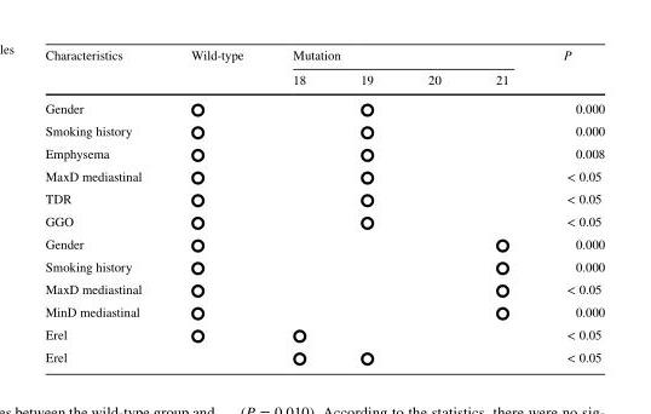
<table><thead><tr><td rowspan="2">Characteristics</td><td rowspan="2">Wild-type</td><td colspan="4">Mutation</td><td rowspan="2">P</td></tr><tr><td>18</td><td>19</td><td>20</td><td>21</td></tr></thead><tbody><tr><td>Gender</td><td></td><td></td><td></td><td></td><td></td><td>0.000</td></tr><tr><td>Smoking history</td><td></td><td></td><td></td><td></td><td></td><td>0.000</td></tr><tr><td>Emphysema</td><td></td><td></td><td></td><td></td><td></td><td>0.008</td></tr><tr><td>MaxD mediastinal</td><td></td><td></td><td></td><td></td><td></td><td>&lt; 0.05</td></tr><tr><td>TDR</td><td></td><td></td><td></td><td></td><td></td><td>&lt; 0.05</td></tr><tr><td>GGO</td><td></td><td></td><td></td><td></td><td></td><td>&lt; 0.05</td></tr><tr><td>Gender</td><td></td><td></td><td></td><td></td><td></td><td>0.000</td></tr><tr><td>Smoking history</td><td></td><td></td><td></td><td></td><td></td><td>0.000</td></tr><tr><td>MaxD mediastinal</td><td></td><td></td><td></td><td></td><td></td><td>&lt; 0.05</td></tr><tr><td>MinD mediastinal</td><td></td><td></td><td></td><td></td><td></td><td>0.000</td></tr><tr><td>Erel</td><td></td><td></td><td></td><td></td><td></td><td>&lt; 0.05</td></tr><tr><td>Erel</td><td></td><td></td><td></td><td></td><td></td><td>&lt; 0.05</td></tr></tbody></table>